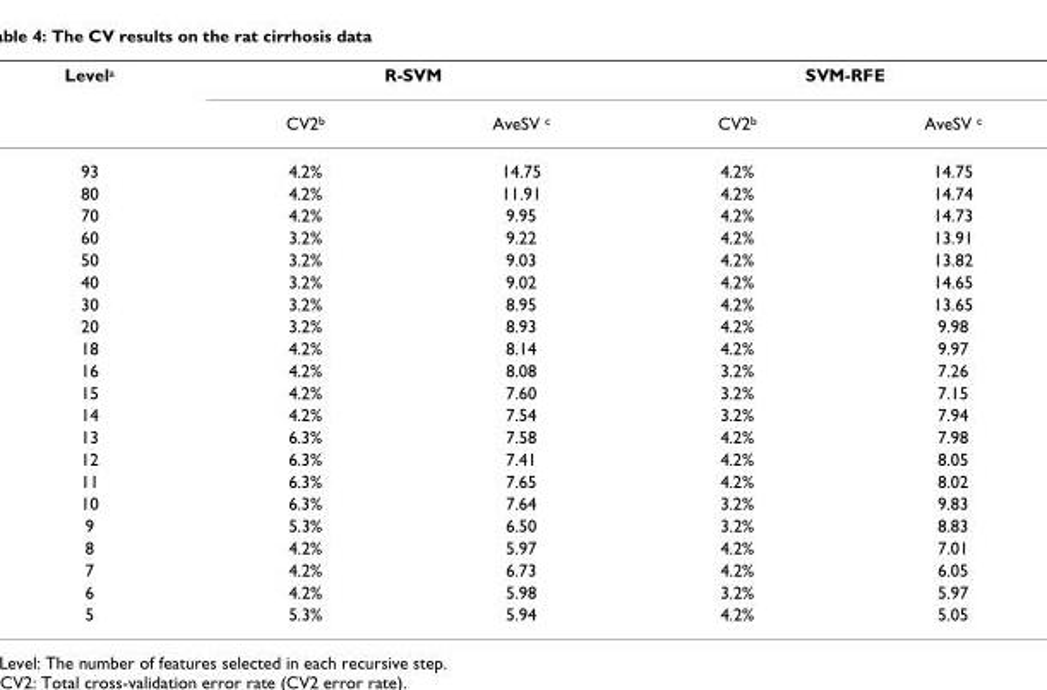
<table><thead><tr><td rowspan="2">Levela</td><td colspan="2">R-SVM</td><td colspan="2">SVM-RFE</td></tr><tr><td>CV2b</td><td>AveSV c</td><td>CV2b</td><td>AveSV c</td></tr></thead><tbody><tr><td>93</td><td>4.2%</td><td>14.75</td><td>4.2%</td><td>14.75</td></tr><tr><td>80</td><td>4.2%</td><td>11.91</td><td>4.2%</td><td>14.74</td></tr><tr><td>70</td><td>4.2%</td><td>9.95</td><td>4.2%</td><td>14.73</td></tr><tr><td>60</td><td>3.2%</td><td>9.22</td><td>4.2%</td><td>13.91</td></tr><tr><td>50</td><td>3.2%</td><td>9.03</td><td>4.2%</td><td>13.82</td></tr><tr><td>40</td><td>3.2%</td><td>9.02</td><td>4.2%</td><td>14.65</td></tr><tr><td>30</td><td>3.2%</td><td>8.95</td><td>4.2%</td><td>13.65</td></tr><tr><td>20</td><td>3.2%</td><td>8.93</td><td>4.2%</td><td>9.98</td></tr><tr><td>18</td><td>4.2%</td><td>8.14</td><td>4.2%</td><td>9.97</td></tr><tr><td>16</td><td>4.2%</td><td>8.08</td><td>3.2%</td><td>7.26</td></tr><tr><td>15</td><td>4.2%</td><td>7.60</td><td>3.2%</td><td>7.15</td></tr><tr><td>14</td><td>4.2%</td><td>7.54</td><td>3.2%</td><td>7.94</td></tr><tr><td>13</td><td>6.3%</td><td>7.58</td><td>4.2%</td><td>7.98</td></tr><tr><td>12</td><td>6.3%</td><td>7.41</td><td>4.2%</td><td>8.05</td></tr><tr><td>11</td><td>6.3%</td><td>7.65</td><td>4.2%</td><td>8.02</td></tr><tr><td>10</td><td>6.3%</td><td>7.64</td><td>3.2%</td><td>9.83</td></tr><tr><td>9</td><td>5.3%</td><td>6.50</td><td>3.2%</td><td>8.83</td></tr><tr><td>8</td><td>4.2%</td><td>5.97</td><td>4.2%</td><td>7.01</td></tr><tr><td>7</td><td>4.2%</td><td>6.73</td><td>4.2%</td><td>6.05</td></tr><tr><td>6</td><td>4.2%</td><td>5.98</td><td>3.2%</td><td>5.97</td></tr><tr><td>5</td><td>5.3%</td><td>5.94</td><td>4.2%</td><td>5.05</td></tr></tbody></table>